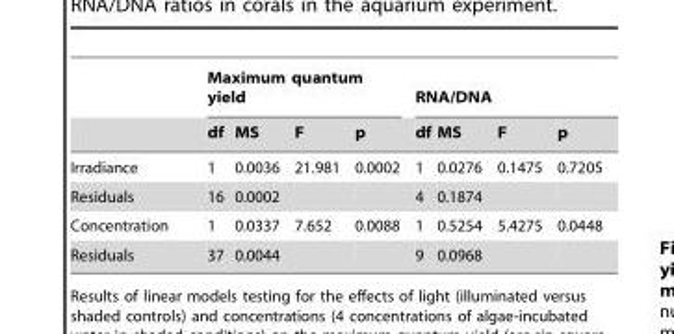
<table><thead><tr><td rowspan="2"></td><td colspan="4">Maximum quantum yield</td><td colspan="4">RNA/DNA</td></tr><tr><td>df</td><td>MS</td><td>F</td><td>p</td><td>df</td><td>MS</td><td>F</td><td>p</td></tr></thead><tbody><tr><td>Irradiance</td><td>1</td><td>0.0036</td><td>21.981</td><td>0.0002</td><td>1</td><td>0.0276</td><td>0.1475</td><td>0.7205</td></tr><tr><td>Residuals</td><td>16</td><td>0.0002</td><td></td><td></td><td>4</td><td>0.1874</td><td></td><td></td></tr><tr><td>Concentration</td><td>1</td><td>0.0337</td><td>7.652</td><td>0.0088</td><td>1</td><td>0.5254</td><td>5.4275</td><td>0.0448</td></tr><tr><td>Residuals</td><td>37</td><td>0.0044</td><td></td><td></td><td>9</td><td>0.0968</td><td></td><td></td></tr></tbody></table>